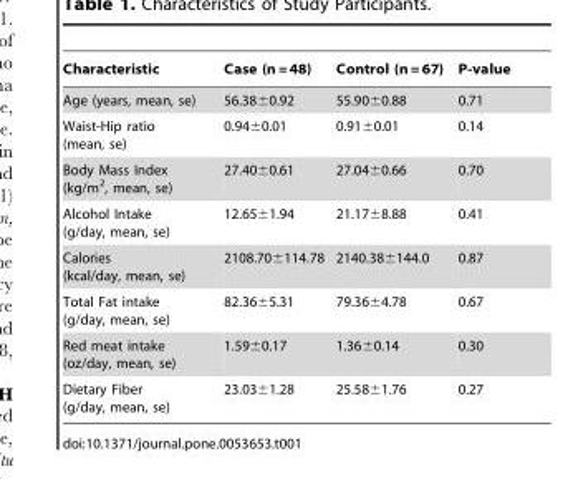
<table><thead><tr><td>Characteristic</td><td>Case (n = 48)</td><td>Control (n = 67)</td><td>P-value</td></tr></thead><tbody><tr><td>Age (years, mean, se)</td><td>56.38±0.92</td><td>55.90±0.88</td><td>0.71</td></tr><tr><td>Waist-Hip ratio (mean, se)</td><td>0.94±0.01</td><td>0.91±0.01</td><td>0.14</td></tr><tr><td>Body Mass Index (kg/m<sup>2</sup>, mean, se)</td><td>27.40±0.61</td><td>27.04±0.66</td><td>0.70</td></tr><tr><td>Alcohol Intake (g/day, mean, se)</td><td>12.65±1.94</td><td>21.17±8.88</td><td>0.41</td></tr><tr><td>Calories (kcal/day, mean, se)</td><td>2108.70±114.78</td><td>2140.38±144.0</td><td>0.87</td></tr><tr><td>Total Fat intake (g/day, mean, se)</td><td>82.36±5.31</td><td>79.36±4.78</td><td>0.67</td></tr><tr><td>Red meat intake (oz/day, mean, se)</td><td>1.59±0.17</td><td>1.36±0.14</td><td>0.30</td></tr><tr><td>Dietary Fiber (g/day, mean, se)</td><td>23.03±1.28</td><td>25.58±1.76</td><td>0.27</td></tr></tbody></table>